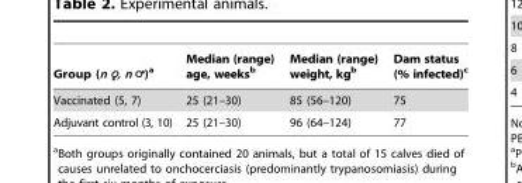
<table><thead><tr><td>Group (n R, n =)a</td><td>Median (range) age, weeks<sup>b</sup></td><td>Median (range) weight, kg<sup>b</sup></td><td>Dam status (% infected)<sup>c</sup></td></tr></thead><tbody><tr><td>Vaccinated (5, 7)</td><td>25 (21–30)</td><td>85 (56–120)</td><td>75</td></tr><tr><td>Adjuvant control (3, 10)</td><td>25 (21–30)</td><td>96 (64–124)</td><td>77</td></tr></tbody></table>